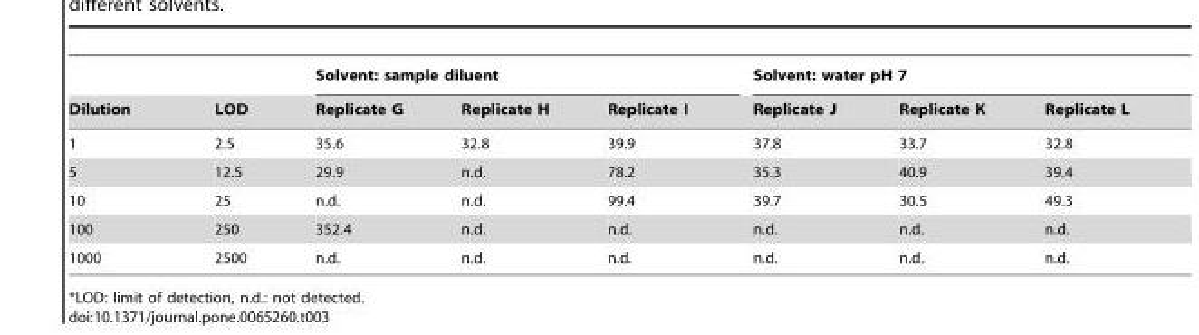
<table><thead><tr><td rowspan="2">Dilution</td><td rowspan="2">LOD</td><td colspan="3">Solvent: sample diluent</td><td colspan="3">Solvent: water pH 7</td></tr><tr><td>Replicate G</td><td>Replicate H</td><td>Replicate I</td><td>Replicate J</td><td>Replicate K</td><td>Replicate L</td></tr></thead><tbody><tr><td>1</td><td>2.5</td><td>35.6</td><td>32.8</td><td>39.9</td><td>37.8</td><td>33.7</td><td>32.8</td></tr><tr><td>5</td><td>12.5</td><td>29.9</td><td>n.d.</td><td>78.2</td><td>35.3</td><td>40.9</td><td>39.4</td></tr><tr><td>10</td><td>25</td><td>n.d.</td><td>n.d.</td><td>99.4</td><td>39.7</td><td>30.5</td><td>49.3</td></tr><tr><td>100</td><td>250</td><td>352.4</td><td>n.d.</td><td>n.d.</td><td>n.d.</td><td>n.d.</td><td>n.d.</td></tr><tr><td>1000</td><td>2500</td><td>n.d.</td><td>n.d.</td><td>n.d.</td><td>n.d.</td><td>n.d.</td><td>n.d.</td></tr></tbody></table>